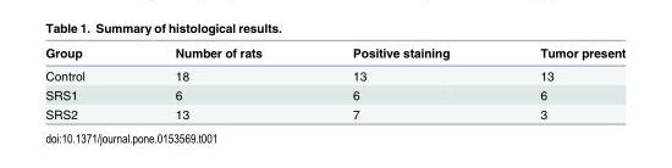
<table><thead><tr><td>Group</td><td>Number of rats</td><td>Positive staining</td><td>Tumor present</td></tr></thead><tbody><tr><td>Control</td><td>18</td><td>13</td><td>13</td></tr><tr><td>SRS1</td><td>6</td><td>6</td><td>6</td></tr><tr><td>SRS2</td><td>13</td><td>7</td><td>3</td></tr></tbody></table>